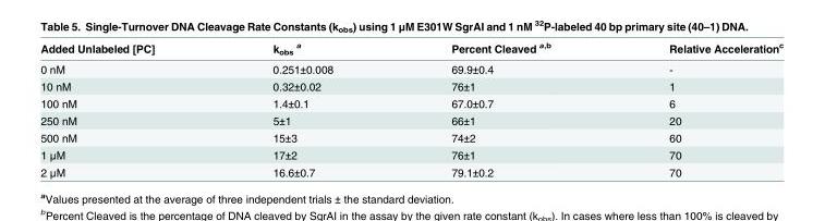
<table><thead><tr><td>Added Unlabeled [PC]</td><td>k<sub>obs</sub> <sup>a</sup></td><td>Percent Cleaved <sup>a,b</sup></td><td>Relative Acceleration<sup>c</sup></td></tr></thead><tbody><tr><td>0 nM</td><td>0.251±0.008</td><td>69.9±0.4</td><td>-</td></tr><tr><td>10 nM</td><td>0.32±0.02</td><td>76±1</td><td>1</td></tr><tr><td>100 nM</td><td>1.4±0.1</td><td>67.0±0.7</td><td>6</td></tr><tr><td>250 nM</td><td>5±1</td><td>66±1</td><td>20</td></tr><tr><td>500 nM</td><td>15±3</td><td>74±2</td><td>60</td></tr><tr><td>1 μM</td><td>17±2</td><td>76±1</td><td>70</td></tr><tr><td>2 μM</td><td>16.6±0.7</td><td>79.1±0.2</td><td>70</td></tr></tbody></table>